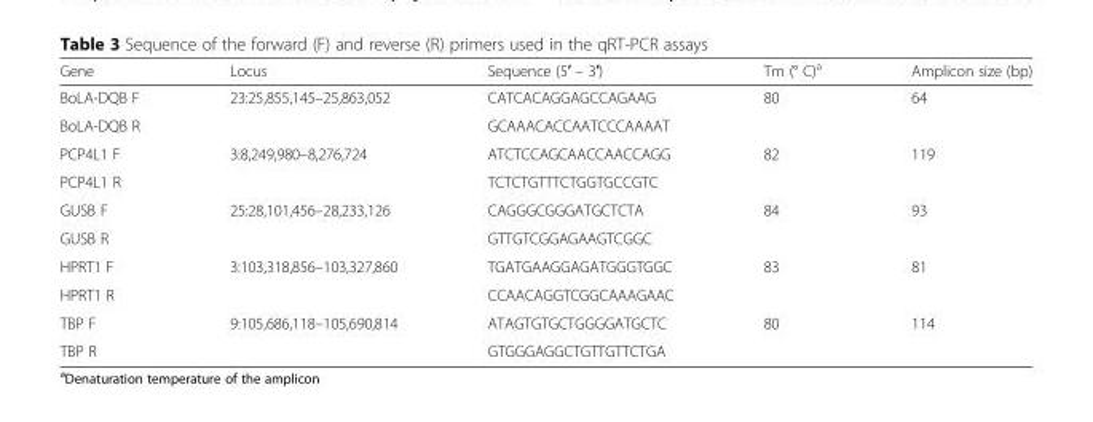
<table><thead><tr><td>Gene</td><td>Locus</td><td>Sequence (5′ – 3′)</td><td>Tm (° C)<sup>a</sup></td><td>Amplicon size (bp)</td></tr></thead><tbody><tr><td>BoLA-DQB F</td><td rowspan="2">23:25,855,145–25,863,052</td><td>CATCACAGGAGCCAGAAG</td><td rowspan="2">80</td><td rowspan="2">64</td></tr><tr><td>BoLA-DQB R</td><td>GCAAACACCAATCCCAAAAT</td></tr><tr><td>PCP4L1 F</td><td rowspan="2">3:8,249,980–8,276,724</td><td>ATCTCCAGCAACCAACCAGG</td><td rowspan="2">82</td><td rowspan="2">119</td></tr><tr><td>PCP4L1 R</td><td>TCTCTGTTTCTGGTGCCGTC</td></tr><tr><td>GUSB F</td><td rowspan="2">25:28,101,456–28,233,126</td><td>CAGGGCGGGATGCTCTA</td><td rowspan="2">84</td><td rowspan="2">93</td></tr><tr><td>GUSB R</td><td>GTTGTCGGAGAAGTCGGC</td></tr><tr><td>HPRT1 F</td><td rowspan="2">3:103,318,856–103,327,860</td><td>TGATGAAGGAGATGGGTGGC</td><td rowspan="2">83</td><td rowspan="2">81</td></tr><tr><td>HPRT1 R</td><td>CCAACAGGTCGGCAAAGAAC</td></tr><tr><td>TBP F</td><td rowspan="2">9:105,686,118–105,690,814</td><td>ATAGTGTGCTGGGGATGCTC</td><td rowspan="2">80</td><td rowspan="2">114</td></tr><tr><td>TBP R</td><td>GTGGGAGGCTGTTGTTCTGA</td></tr></tbody></table>